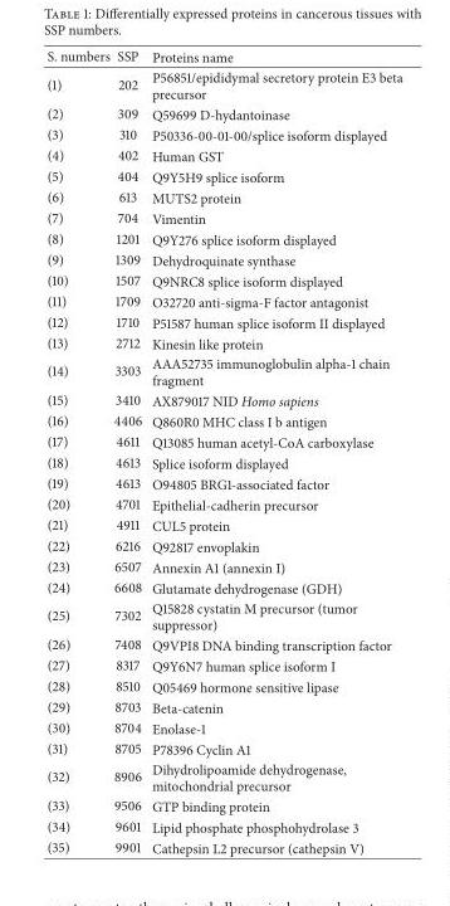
<table><thead><tr><td>S. numbers</td><td>SSP</td><td>Proteins name</td></tr></thead><tbody><tr><td>(1)</td><td>202</td><td>P56851/epididymal secretory protein E3 beta precursor</td></tr><tr><td>(2)</td><td>309</td><td>Q59699 D-hydantoinase</td></tr><tr><td>(3)</td><td>310</td><td>P50336-00-01-00/splice isoform displayed</td></tr><tr><td>(4)</td><td>402</td><td>Human GST</td></tr><tr><td>(5)</td><td>404</td><td>Q9Y5H9 splice isoform</td></tr><tr><td>(6)</td><td>613</td><td>MUTS2 protein</td></tr><tr><td>(7)</td><td>704</td><td>Vimentin</td></tr><tr><td>(8)</td><td>1201</td><td>Q9Y276 splice isoform displayed</td></tr><tr><td>(9)</td><td>1309</td><td>Dehydroquinate synthase</td></tr><tr><td>(10)</td><td>1507</td><td>Q9NRC8 splice isoform displayed</td></tr><tr><td>(11)</td><td>1709</td><td>O32720 anti-sigma-F factor antagonist</td></tr><tr><td>(12)</td><td>1710</td><td>P51587 human splice isoform II displayed</td></tr><tr><td>(13)</td><td>2712</td><td>Kinesin like protein</td></tr><tr><td>(14)</td><td>3303</td><td>AAA52735 immunoglobulin alpha-1 chain fragment</td></tr><tr><td>(15)</td><td>3410</td><td>AX879017 NID Homo sapiens</td></tr><tr><td>(16)</td><td>4406</td><td>Q860R0 MHC class I b antigen</td></tr><tr><td>(17)</td><td>4611</td><td>Q13085 human acetyl-CoA carboxylase</td></tr><tr><td>(18)</td><td>4613</td><td>Splice isoform displayed</td></tr><tr><td>(19)</td><td>4613</td><td>O94805 BRG1-associated factor</td></tr><tr><td>(20)</td><td>4701</td><td>Epithelial-cadherin precursor</td></tr><tr><td>(21)</td><td>4911</td><td>CUL5 protein</td></tr><tr><td>(22)</td><td>6216</td><td>Q92817 envoplakin</td></tr><tr><td>(23)</td><td>6507</td><td>Annexin A1 (annexin I)</td></tr><tr><td>(24)</td><td>6608</td><td>Glutamate dehydrogenase (GDH)</td></tr><tr><td>(25)</td><td>7302</td><td>Q15828 cystatin M precursor (tumor suppressor)</td></tr><tr><td>(26)</td><td>7408</td><td>Q9VPI8 DNA binding transcription factor</td></tr><tr><td>(27)</td><td>8317</td><td>Q9Y6N7 human splice isoform I</td></tr><tr><td>(28)</td><td>8510</td><td>Q05469 hormone sensitive lipase</td></tr><tr><td>(29)</td><td>8703</td><td>Beta-catenin</td></tr><tr><td>(30)</td><td>8704</td><td>Enolase-1</td></tr><tr><td>(31)</td><td>8705</td><td>P78396 Cyclin A1</td></tr><tr><td>(32)</td><td>8906</td><td>Dihydrolipoamide dehydrogenase, mitochondrial precursor</td></tr><tr><td>(33)</td><td>9506</td><td>GTP binding protein</td></tr><tr><td>(34)</td><td>9601</td><td>Lipid phosphate phosphohydrolase 3</td></tr><tr><td>(35)</td><td>9901</td><td>Cathepsin L2 precursor (cathepsin V)</td></tr></tbody></table>